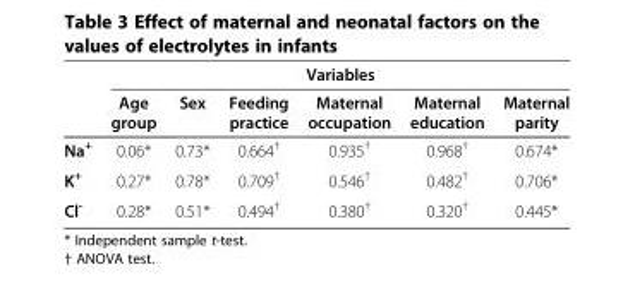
<table><thead><tr><td rowspan="2"></td><td colspan="6">Variables</td></tr><tr><td>Age group</td><td>Sex</td><td>Feeding practice</td><td>Maternal occupation</td><td>Maternal education</td><td>Maternal parity</td></tr></thead><tbody><tr><td>Na<sup>+</sup></td><td>0.06*</td><td>0.73*</td><td>0.664<sup>†</sup></td><td>0.935<sup>†</sup></td><td>0.968<sup>†</sup></td><td>0.674*</td></tr><tr><td>K<sup>+</sup></td><td>0.27*</td><td>0.78*</td><td>0.709<sup>†</sup></td><td>0.546<sup>†</sup></td><td>0.482<sup>†</sup></td><td>0.706*</td></tr><tr><td>Cl<sup>-</sup></td><td>0.28*</td><td>0.51*</td><td>0.494<sup>†</sup></td><td>0.380<sup>†</sup></td><td>0.320<sup>†</sup></td><td>0.445*</td></tr></tbody></table>